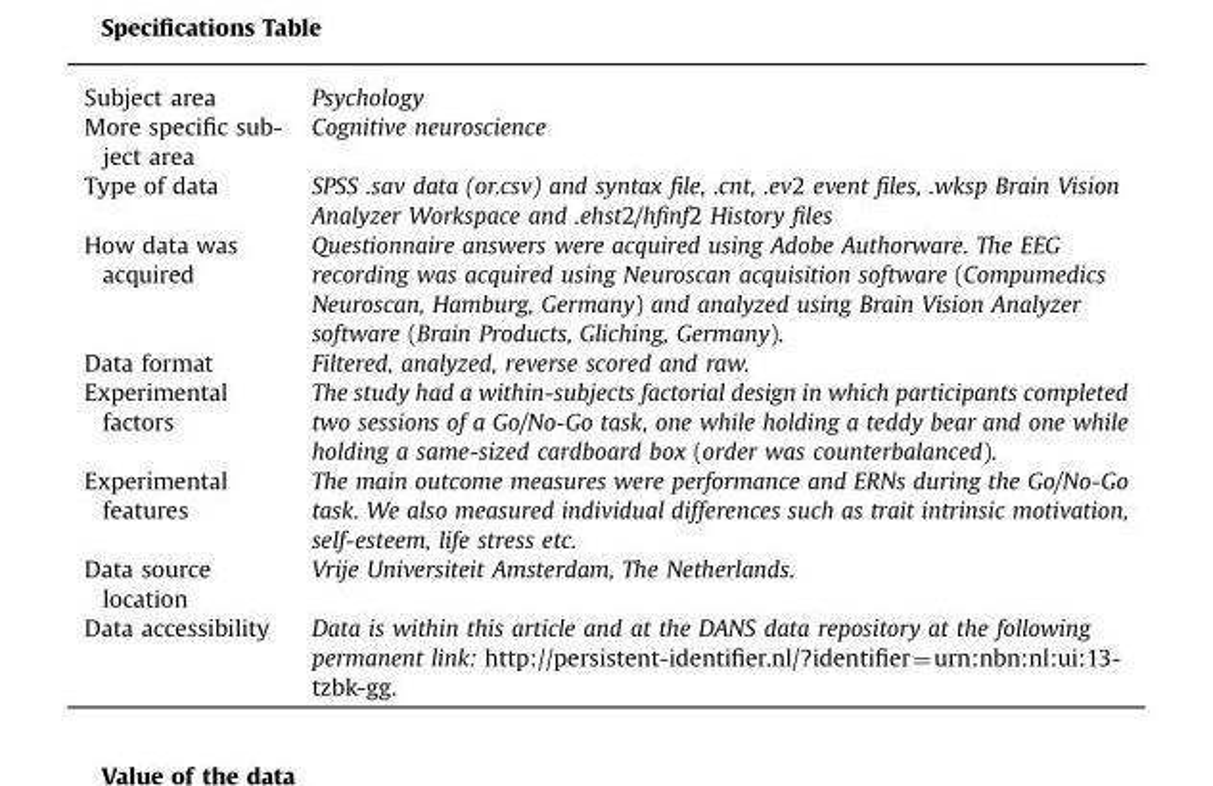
<table><tbody><tr><td>Subject area</td><td>Psychology</td></tr><tr><td>More specific sub- ject area</td><td>Cognitive neuroscience</td></tr><tr><td>Type of data</td><td>SPSS .sav data (or.csv) and syntax file, .cnt, .ev2 event files, .wksp Brain Vision Analyzer Workspace and .ehst2/hfinf2 History files</td></tr><tr><td>How data was acquired</td><td>Questionnaire answers were acquired using Adobe Authorware. The EEG recording was acquired using Neuroscan acquisition software (Compumedics Neuroscan, Hamburg, Germany) and analyzed using Brain Vision Analyzer software (Brain Products, Gliching, Germany).</td></tr><tr><td>Data format</td><td>Filtered, analyzed, reverse scored and raw.</td></tr><tr><td>Experimental factors</td><td>The study had a within-subjects factorial design in which participants completed two sessions of a Go/No-Go task, one while holding a teddy bear and one while holding a same-sized cardboard box (order was counterbalanced).</td></tr><tr><td>Experimental features</td><td>The main outcome measures were performance and ERNs during the Go/No-Go task. We also measured individual differences such as trait intrinsic motivation, self-esteem, life stress etc.</td></tr><tr><td>Data source location</td><td>Vrije Universiteit Amsterdam, The Netherlands.</td></tr><tr><td>Data accessibility</td><td>Data is within this article and at the DANS data repository at the following permanent link: http://persistent-identifier.nl/?identifier=urn:nbn:nl:ui:13- tzbk-gg.</td></tr></tbody></table>